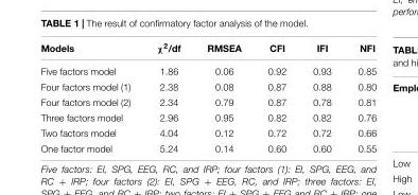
<table><thead><tr><td>Models</td><td>χ<sup>2</sup>/df</td><td>RMSEA</td><td>CFI</td><td>IFI</td><td>NFI</td></tr></thead><tbody><tr><td>Five factors model</td><td>1.86</td><td>0.06</td><td>0.92</td><td>0.93</td><td>0.85</td></tr><tr><td>Four factors model (1)</td><td>2.38</td><td>0.08</td><td>0.87</td><td>0.88</td><td>0.80</td></tr><tr><td>Four factors model (2)</td><td>2.34</td><td>0.79</td><td>0.87</td><td>0.78</td><td>0.81</td></tr><tr><td>Three factors model</td><td>2.96</td><td>0.95</td><td>0.82</td><td>0.82</td><td>0.76</td></tr><tr><td>Two factors model</td><td>4.04</td><td>0.12</td><td>0.72</td><td>0.72</td><td>0.66</td></tr><tr><td>One factor model</td><td>5.24</td><td>0.14</td><td>0.60</td><td>0.60</td><td>0.55</td></tr></tbody></table>